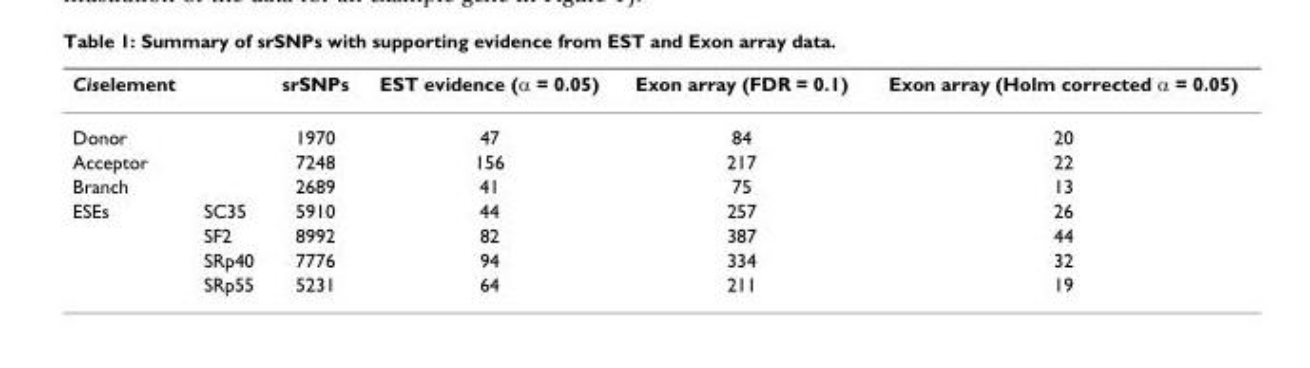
<table><thead><tr><td>Ciselement</td><td></td><td>srSNPs</td><td>EST evidence (α = 0.05)</td><td>Exon array (FDR = 0.1)</td><td>Exon array (Holm corrected α = 0.05)</td></tr></thead><tbody><tr><td>Donor</td><td></td><td>1970</td><td>47</td><td>84</td><td>20</td></tr><tr><td>Acceptor</td><td></td><td>7248</td><td>156</td><td>217</td><td>22</td></tr><tr><td>Branch</td><td></td><td>2689</td><td>41</td><td>75</td><td>13</td></tr><tr><td rowspan="4">ESEs</td><td>SC35</td><td>5910</td><td>44</td><td>257</td><td>26</td></tr><tr><td>SF2</td><td>8992</td><td>82</td><td>387</td><td>44</td></tr><tr><td>SRp40</td><td>7776</td><td>94</td><td>334</td><td>32</td></tr><tr><td>SRp55</td><td>5231</td><td>64</td><td>211</td><td>19</td></tr></tbody></table>